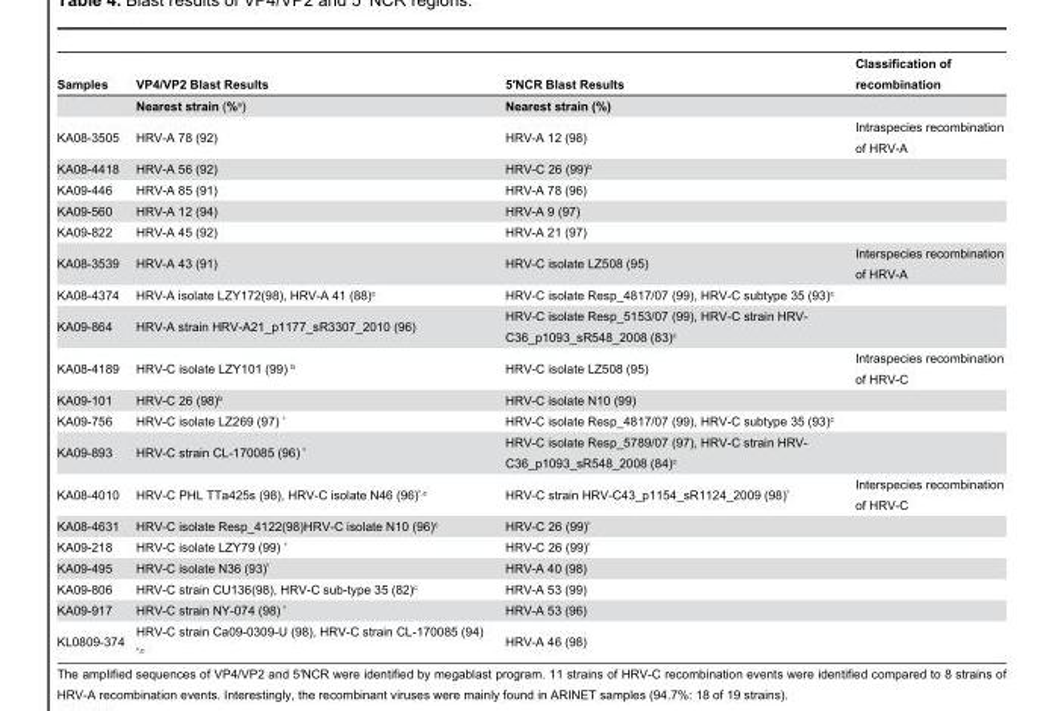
<table><thead><tr><td>Samples</td><td>VP4/VP2 Blast Results</td><td>5′NCR Blast Results</td><td>Classification of recombination</td></tr></thead><tbody><tr><td></td><td>Nearest strain (%<sup>a</sup>)</td><td>Nearest strain (%)</td><td></td></tr><tr><td>KA08-3505</td><td>HRV-A 78 (92)</td><td>HRV-A 12 (98)</td><td>Intraspecies recombination of HRV-A</td></tr><tr><td>KA08-4418</td><td>HRV-A 56 (92)</td><td>HRV-C 26 (99)<sup>b</sup></td><td></td></tr><tr><td>KA09-446</td><td>HRV-A 85 (91)</td><td>HRV-A 78 (96)</td><td></td></tr><tr><td>KA09-560</td><td>HRV-A 12 (94)</td><td>HRV-A 9 (97)</td><td></td></tr><tr><td>KA09-822</td><td>HRV-A 45 (92)</td><td>HRV-A 21 (97)</td><td></td></tr><tr><td>KA08-3539</td><td>HRV-A 43 (91)</td><td>HRV-C isolate LZ508 (95)</td><td>Interspecies recombination of HRV-A</td></tr><tr><td>KA08-4374</td><td>HRV-A isolate LZY172(98), HRV-A 41 (88)<sup>c</sup></td><td>HRV-C isolate Resp_4817/07 (99), HRV-C subtype 35 (93)<sup>c</sup></td><td></td></tr><tr><td>KA09-864</td><td>HRV-A strain HRV-A21_p1177_sR3307_2010 (96)</td><td>HRV-C isolate Resp_5153/07 (99), HRV-C strain HRV- C36_p1093_sR548_2008 (83)<sup>c</sup></td><td></td></tr><tr><td>KA08-4189</td><td>HRV-C isolate LZY101 (99) <sup>b</sup></td><td>HRV-C isolate LZ508 (95)</td><td>Intraspecies recombination of HRV-C</td></tr><tr><td>KA09-101</td><td>HRV-C 26 (98)<sup>b</sup></td><td>HRV-C isolate N10 (99)</td><td></td></tr><tr><td>KA09-756</td><td>HRV-C isolate LZ269 (97) <sup>b</sup></td><td>HRV-C isolate Resp_4817/07 (99), HRV-C subtype 35 (93)<sup>c</sup></td><td></td></tr><tr><td>KA09-893</td><td>HRV-C strain CL-170085 (96) <sup>b</sup></td><td>HRV-C isolate Resp_5789/07 (97), HRV-C strain HRV- C36_p1093_sR548_2008 (84)<sup>c</sup></td><td></td></tr><tr><td>KA08-4010</td><td>HRV-C PHL TTa425s (98), HRV-C isolate N46 (96) <sup>b,c</sup></td><td>HRV-C strain HRV-C43_p1154_sR1124_2009 (98) <sup>b</sup></td><td>Interspecies recombination of HRV-C</td></tr><tr><td>KA08-4631</td><td>HRV-C isolate Resp_4122(98)HRV-C isolate N10 (96)<sup>c</sup></td><td>HRV-C 26 (99) <sup>b</sup></td><td></td></tr><tr><td>KA09-218</td><td>HRV-C isolate LZY79 (99) <sup>b</sup></td><td>HRV-C 26 (99) <sup>b</sup></td><td></td></tr><tr><td>KA09-495</td><td>HRV-C isolate N36 (93) <sup>b</sup></td><td>HRV-A 40 (98)</td><td></td></tr><tr><td>KA09-806</td><td>HRV-C strain CU136(98), HRV-C sub-type 35 (82)<sup>c</sup></td><td>HRV-A 53 (99)</td><td></td></tr><tr><td>KA09-917</td><td>HRV-C strain NY-074 (98) <sup>b</sup></td><td>HRV-A 53 (96)</td><td></td></tr><tr><td>KL0809-374</td><td>HRV-C strain Ca09-0309-U (98), HRV-C strain CL-170085 (94) <sup>b,c</sup></td><td>HRV-A 46 (98)</td><td></td></tr></tbody></table>